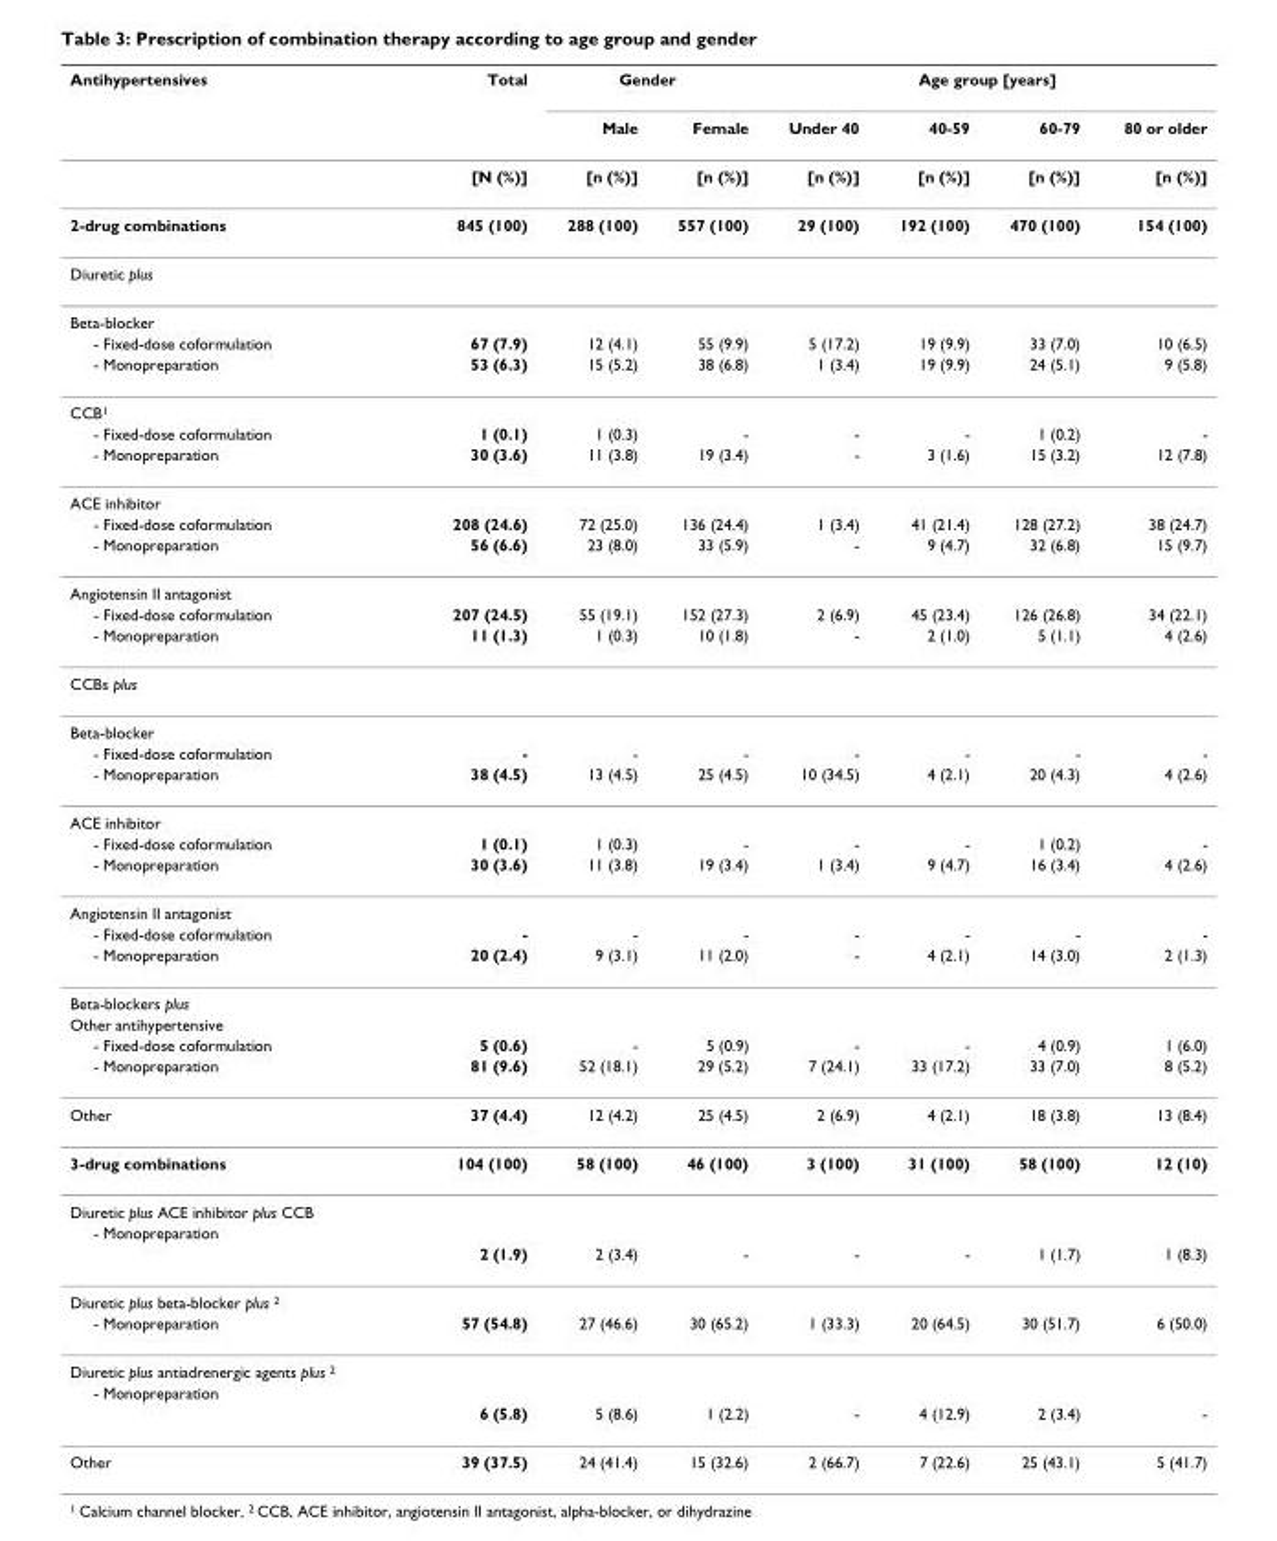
<table><thead><tr><td rowspan="2">Antihypertensives</td><td rowspan="2">Total</td><td colspan="2">Gender</td><td colspan="4">Age group [years]</td></tr><tr><td>Male</td><td>Female</td><td>Under 40</td><td>40-59</td><td>60-79</td><td>80 or older</td></tr></thead><tbody><tr><td></td><td>[N (%)]</td><td>[n (%)]</td><td>[n (%)]</td><td>[n (%)]</td><td>[n (%)]</td><td>[n (%)]</td><td>[n (%)]</td></tr><tr><td>2-drug combinations</td><td>845 (100)</td><td>288 (100)</td><td>557 (100)</td><td>29 (100)</td><td>192 (100)</td><td>470 (100)</td><td>154 (100)</td></tr><tr><td colspan="8">Diuretic plus</td></tr><tr><td colspan="8">Beta-blocker</td></tr><tr><td>- Fixed-dose coformulation</td><td>67 (7.9)</td><td>12 (4.1)</td><td>55 (9.9)</td><td>5 (17.2)</td><td>19 (9.9)</td><td>33 (7.0)</td><td>10 (6.5)</td></tr><tr><td>- Monopreparation</td><td>53 (6.3)</td><td>15 (5.2)</td><td>38 (6.8)</td><td>1 (3.4)</td><td>19 (9.9)</td><td>24 (5.1)</td><td>9 (5.8)</td></tr><tr><td colspan="8">CCB<sup>1</sup></td></tr><tr><td>- Fixed-dose coformulation</td><td>1 (0.1)</td><td>1 (0.3)</td><td>-</td><td>-</td><td>-</td><td>1 (0.2)</td><td>-</td></tr><tr><td>- Monopreparation</td><td>30 (3.6)</td><td>11 (3.8)</td><td>19 (3.4)</td><td>-</td><td>3 (1.6)</td><td>15 (3.2)</td><td>12 (7.8)</td></tr><tr><td colspan="8">ACE inhibitor</td></tr><tr><td>- Fixed-dose coformulation</td><td>208 (24.6)</td><td>72 (25.0)</td><td>136 (24.4)</td><td>1 (3.4)</td><td>41 (21.4)</td><td>128 (27.2)</td><td>38 (24.7)</td></tr><tr><td>- Monopreparation</td><td>56 (6.6)</td><td>23 (8.0)</td><td>33 (5.9)</td><td>-</td><td>9 (4.7)</td><td>32 (6.8)</td><td>15 (9.7)</td></tr><tr><td colspan="8">Angiotensin II antagonist</td></tr><tr><td>- Fixed-dose coformulation</td><td>207 (24.5)</td><td>55 (19.1)</td><td>152 (27.3)</td><td>2 (6.9)</td><td>45 (23.4)</td><td>126 (26.8)</td><td>34 (22.1)</td></tr><tr><td>- Monopreparation</td><td>11 (1.3)</td><td>1 (0.3)</td><td>10 (1.8)</td><td>-</td><td>2 (1.0)</td><td>5 (1.1)</td><td>4 (2.6)</td></tr><tr><td colspan="8">CCBs plus</td></tr><tr><td colspan="8">Beta-blocker</td></tr><tr><td>- Fixed-dose coformulation</td><td>-</td><td>-</td><td>-</td><td>-</td><td>-</td><td>-</td><td>-</td></tr><tr><td>- Monopreparation</td><td>38 (4.5)</td><td>13 (4.5)</td><td>25 (4.5)</td><td>10 (34.5)</td><td>4 (2.1)</td><td>20 (4.3)</td><td>4 (2.6)</td></tr><tr><td colspan="8">ACE inhibitor</td></tr><tr><td>- Fixed-dose coformulation</td><td>1 (0.1)</td><td>1 (0.3)</td><td>-</td><td>-</td><td>-</td><td>1 (0.2)</td><td>-</td></tr><tr><td>- Monopreparation</td><td>30 (3.6)</td><td>11 (3.8)</td><td>19 (3.4)</td><td>1 (3.4)</td><td>9 (4.7)</td><td>16 (3.4)</td><td>4 (2.6)</td></tr><tr><td colspan="8">Angiotensin II antagonist</td></tr><tr><td>- Fixed-dose coformulation</td><td>-</td><td>-</td><td>-</td><td>-</td><td>-</td><td>-</td><td>-</td></tr><tr><td>- Monopreparation</td><td>20 (2.4)</td><td>9 (3.1)</td><td>11 (2.0)</td><td>-</td><td>4 (2.1)</td><td>14 (3.0)</td><td>2 (1.3)</td></tr><tr><td colspan="8">Beta-blockers plus</td></tr><tr><td colspan="8">Other antihypertensive</td></tr><tr><td>- Fixed-dose coformulation</td><td>5 (0.6)</td><td>-</td><td>5 (0.9)</td><td>-</td><td>-</td><td>4 (0.9)</td><td>1 (6.0)</td></tr><tr><td>- Monopreparation</td><td>81 (9.6)</td><td>52 (18.1)</td><td>29 (5.2)</td><td>7 (24.1)</td><td>33 (17.2)</td><td>33 (7.0)</td><td>8 (5.2)</td></tr><tr><td>Other</td><td>37 (4.4)</td><td>12 (4.2)</td><td>25 (4.5)</td><td>2 (6.9)</td><td>4 (2.1)</td><td>18 (3.8)</td><td>13 (8.4)</td></tr><tr><td>3-drug combinations</td><td>104 (100)</td><td>58 (100)</td><td>46 (100)</td><td>3 (100)</td><td>31 (100)</td><td>58 (100)</td><td>12 (10)</td></tr><tr><td colspan="8">Diuretic plus ACE inhibitor plus CCB</td></tr><tr><td colspan="8">- Monopreparation</td></tr><tr><td></td><td>2 (1.9)</td><td>2 (3.4)</td><td>-</td><td>-</td><td>-</td><td>1 (1.7)</td><td>1 (8.3)</td></tr><tr><td colspan="8">Diuretic plus beta-blocker plus <sup>2</sup></td></tr><tr><td>- Monopreparation</td><td>57 (54.8)</td><td>27 (46.6)</td><td>30 (65.2)</td><td>1 (33.3)</td><td>20 (64.5)</td><td>30 (51.7)</td><td>6 (50.0)</td></tr><tr><td colspan="8">Diuretic plus antiadrenergic agents plus <sup>2</sup></td></tr><tr><td colspan="8">- Monopreparation</td></tr><tr><td></td><td>6 (5.8)</td><td>5 (8.6)</td><td>1 (2.2)</td><td>-</td><td>4 (12.9)</td><td>2 (3.4)</td><td>-</td></tr><tr><td>Other</td><td>39 (37.5)</td><td>24 (41.4)</td><td>15 (32.6)</td><td>2 (66.7)</td><td>7 (22.6)</td><td>25 (43.1)</td><td>5 (41.7)</td></tr></tbody></table>